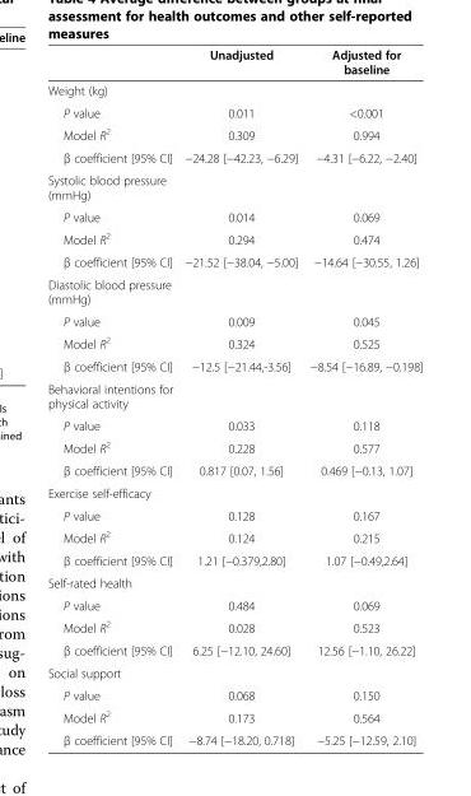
<table><thead><tr><td></td><td>Unadjusted</td><td>Adjusted for baseline</td></tr></thead><tbody><tr><td colspan="3">Weight (kg)</td></tr><tr><td>P value</td><td>0.011</td><td>&lt;0.001</td></tr><tr><td>Model R2</td><td>0.309</td><td>0.994</td></tr><tr><td>β coefficient [95% CI]</td><td>−24.28 [−42.23, −6.29]</td><td>−4.31 [−6.22, −2.40]</td></tr><tr><td colspan="3">Systolic blood pressure (mmHg)</td></tr><tr><td>P value</td><td>0.014</td><td>0.069</td></tr><tr><td>Model R2</td><td>0.294</td><td>0.474</td></tr><tr><td>β coefficient [95% CI]</td><td>−21.52 [−38.04, −5.00]</td><td>−14.64 [−30.55, 1.26]</td></tr><tr><td colspan="3">Diastolic blood pressure (mmHg)</td></tr><tr><td>P value</td><td>0.009</td><td>0.045</td></tr><tr><td>Model R2</td><td>0.324</td><td>0.525</td></tr><tr><td>β coefficient [95% CI]</td><td>−12.5 [−21.44,-3.56]</td><td>−8.54 [−16.89, −0.198]</td></tr><tr><td colspan="3">Behavioral intentions for physical activity</td></tr><tr><td>P value</td><td>0.033</td><td>0.118</td></tr><tr><td>Model R2</td><td>0.228</td><td>0.577</td></tr><tr><td>β coefficient [95% CI]</td><td>0.817 [0.07, 1.56]</td><td>0.469 [−0.13, 1.07]</td></tr><tr><td colspan="3">Exercise self-efficacy</td></tr><tr><td>P value</td><td>0.128</td><td>0.167</td></tr><tr><td>Model R2</td><td>0.124</td><td>0.215</td></tr><tr><td>β coefficient [95% CI]</td><td>1.21 [−0.379,2.80]</td><td>1.07 [−0.49,2.64]</td></tr><tr><td colspan="3">Self-rated health</td></tr><tr><td>P value</td><td>0.484</td><td>0.069</td></tr><tr><td>Model R2</td><td>0.028</td><td>0.523</td></tr><tr><td>β coefficient [95% CI]</td><td>6.25 [−12.10, 24.60]</td><td>12.56 [−1.10, 26.22]</td></tr><tr><td colspan="3">Social support</td></tr><tr><td>P value</td><td>0.068</td><td>0.150</td></tr><tr><td>Model R2</td><td>0.173</td><td>0.564</td></tr><tr><td>β coefficient [95% CI]</td><td>−8.74 [−18.20, 0.718]</td><td>−5.25 [−12.59, 2.10]</td></tr></tbody></table>